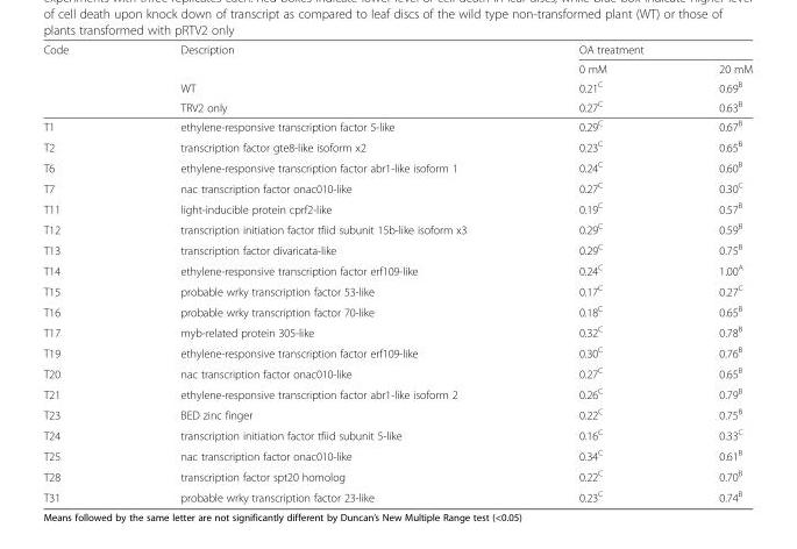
<table><thead><tr><td rowspan="4">Code</td><td rowspan="4">Description WT TRV2 only</td><td colspan="2">OA treatment</td></tr><tr><td rowspan="3">0 mM 0.21<sup>C</sup> 0.27<sup>C</sup></td><td rowspan="3">20 mM 0.69<sup>B</sup> 0.63<sup>B</sup></td></tr><tr></tr><tr></tr></thead><tbody><tr><td>T1</td><td>ethylene-responsive transcription factor 5-like</td><td>0.29<sup>C</sup></td><td>0.67<sup>B</sup></td></tr><tr><td>T2</td><td>transcription factor gte8-like isoform x2</td><td>0.23<sup>C</sup></td><td>0.65<sup>B</sup></td></tr><tr><td>T6</td><td>ethylene-responsive transcription factor abr1-like isoform 1</td><td>0.24<sup>C</sup></td><td>0.60<sup>B</sup></td></tr><tr><td>T7</td><td>nac transcription factor onac010-like</td><td>0.27<sup>C</sup></td><td>0.30<sup>C</sup></td></tr><tr><td>T11</td><td>light-inducible protein cprf2-like</td><td>0.19<sup>C</sup></td><td>0.57<sup>B</sup></td></tr><tr><td>T12</td><td>transcription initiation factor tfiid subunit 15b-like isoform x3</td><td>0.29<sup>C</sup></td><td>0.59<sup>B</sup></td></tr><tr><td>T13</td><td>transcription factor divaricata-like</td><td>0.29<sup>C</sup></td><td>0.75<sup>B</sup></td></tr><tr><td>T14</td><td>ethylene-responsive transcription factor erf109-like</td><td>0.24<sup>C</sup></td><td>1.00<sup>A</sup></td></tr><tr><td>T15</td><td>probable wrky transcription factor 53-like</td><td>0.17<sup>C</sup></td><td>0.27<sup>C</sup></td></tr><tr><td>T16</td><td>probable wrky transcription factor 70-like</td><td>0.18<sup>C</sup></td><td>0.65<sup>B</sup></td></tr><tr><td>T17</td><td>myb-related protein 305-like</td><td>0.32<sup>C</sup></td><td>0.78<sup>B</sup></td></tr><tr><td>T19</td><td>ethylene-responsive transcription factor erf109-like</td><td>0.30<sup>C</sup></td><td>0.76<sup>B</sup></td></tr><tr><td>T20</td><td>nac transcription factor onac010-like</td><td>0.27<sup>C</sup></td><td>0.65<sup>B</sup></td></tr><tr><td>T21</td><td>ethylene-responsive transcription factor abr1-like isoform 2</td><td>0.26<sup>C</sup></td><td>0.79<sup>B</sup></td></tr><tr><td>T23</td><td>BED zinc finger</td><td>0.22<sup>C</sup></td><td>0.75<sup>B</sup></td></tr><tr><td>T24</td><td>transcription initiation factor tfiid subunit 5-like</td><td>0.16<sup>C</sup></td><td>0.33<sup>C</sup></td></tr><tr><td>T25</td><td>nac transcription factor onac010-like</td><td>0.34<sup>C</sup></td><td>0.61<sup>B</sup></td></tr><tr><td>T28</td><td>transcription factor spt20 homolog</td><td>0.22<sup>C</sup></td><td>0.70<sup>B</sup></td></tr><tr><td>T31</td><td>probable wrky transcription factor 23-like</td><td>0.23<sup>C</sup></td><td>0.74<sup>B</sup></td></tr></tbody></table>